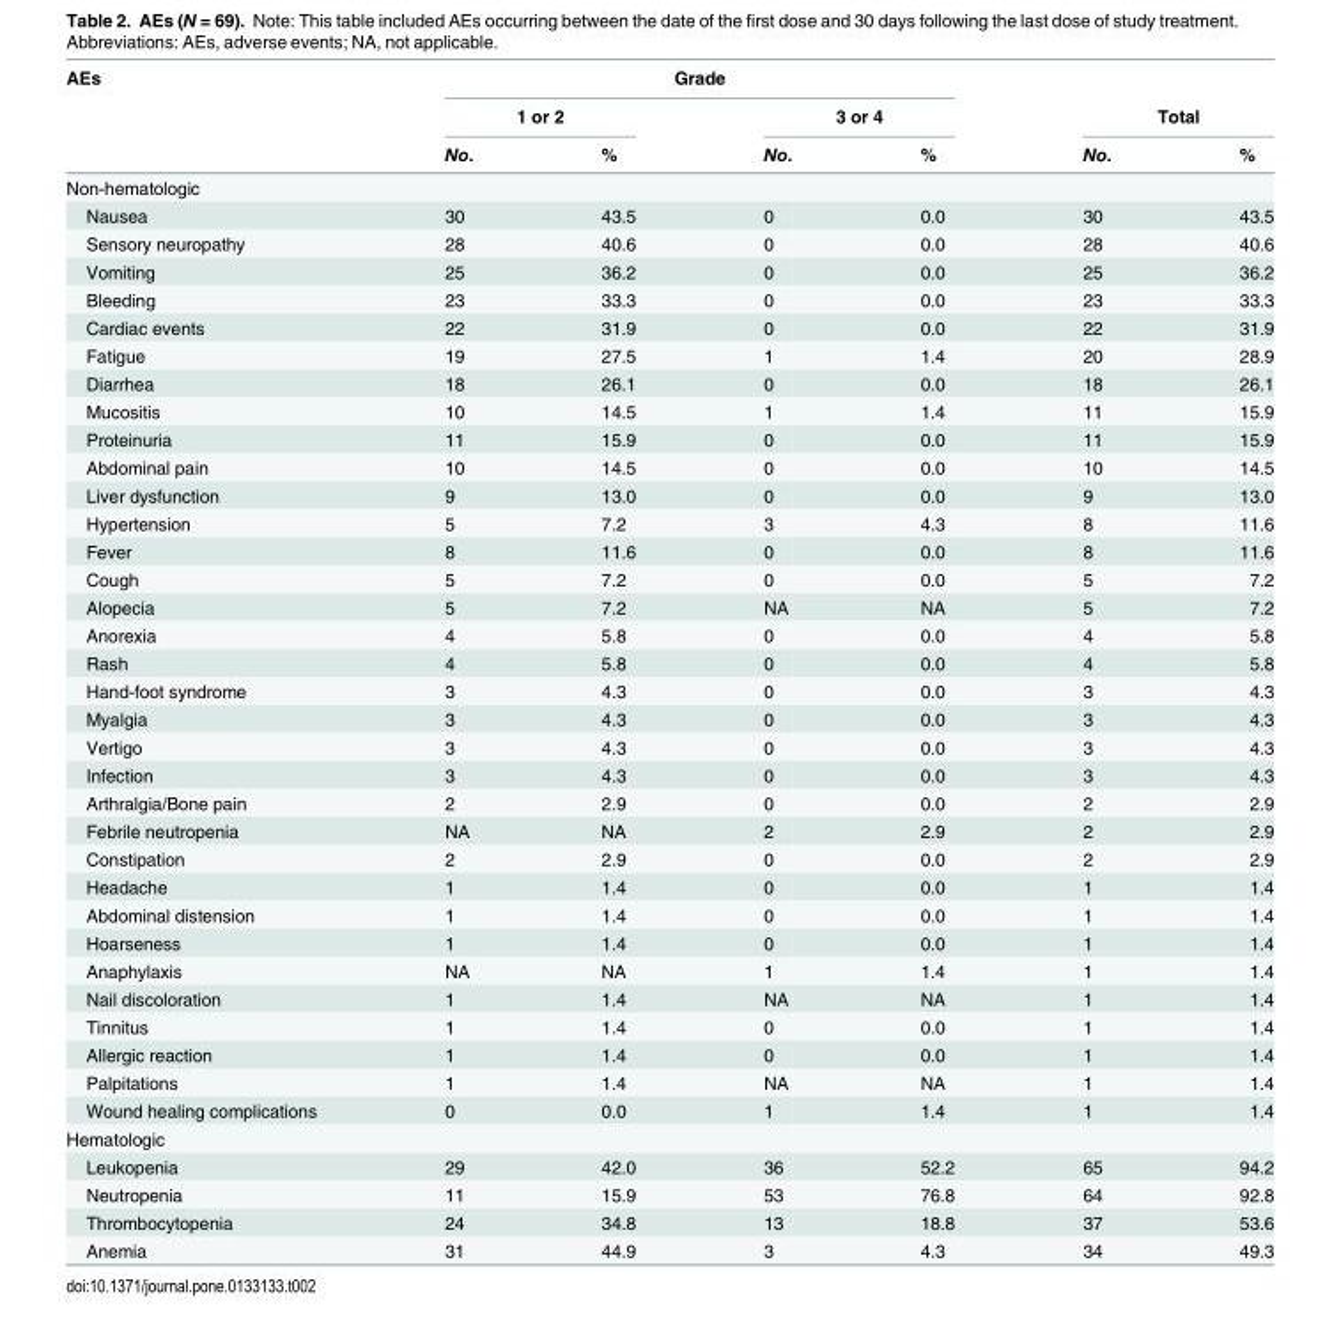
<table><thead><tr><td rowspan="3">AEs</td><td colspan="4">Grade</td><td></td><td></td></tr><tr><td colspan="2">1 or 2</td><td colspan="2">3 or 4</td><td colspan="2">Total</td></tr><tr><td>No.</td><td>%</td><td>No.</td><td>%</td><td>No.</td><td>%</td></tr></thead><tbody><tr><td colspan="7">Non-hematologic</td></tr><tr><td>Nausea</td><td>30</td><td>43.5</td><td>0</td><td>0.0</td><td>30</td><td>43.5</td></tr><tr><td>Sensory neuropathy</td><td>28</td><td>40.6</td><td>0</td><td>0.0</td><td>28</td><td>40.6</td></tr><tr><td>Vomiting</td><td>25</td><td>36.2</td><td>0</td><td>0.0</td><td>25</td><td>36.2</td></tr><tr><td>Bleeding</td><td>23</td><td>33.3</td><td>0</td><td>0.0</td><td>23</td><td>33.3</td></tr><tr><td>Cardiac events</td><td>22</td><td>31.9</td><td>0</td><td>0.0</td><td>22</td><td>31.9</td></tr><tr><td>Fatigue</td><td>19</td><td>27.5</td><td>1</td><td>1.4</td><td>20</td><td>28.9</td></tr><tr><td>Diarrhea</td><td>18</td><td>26.1</td><td>0</td><td>0.0</td><td>18</td><td>26.1</td></tr><tr><td>Mucositis</td><td>10</td><td>14.5</td><td>1</td><td>1.4</td><td>11</td><td>15.9</td></tr><tr><td>Proteinuria</td><td>11</td><td>15.9</td><td>0</td><td>0.0</td><td>11</td><td>15.9</td></tr><tr><td>Abdominal pain</td><td>10</td><td>14.5</td><td>0</td><td>0.0</td><td>10</td><td>14.5</td></tr><tr><td>Liver dysfunction</td><td>9</td><td>13.0</td><td>0</td><td>0.0</td><td>9</td><td>13.0</td></tr><tr><td>Hypertension</td><td>5</td><td>7.2</td><td>3</td><td>4.3</td><td>8</td><td>11.6</td></tr><tr><td>Fever</td><td>8</td><td>11.6</td><td>0</td><td>0.0</td><td>8</td><td>11.6</td></tr><tr><td>Cough</td><td>5</td><td>7.2</td><td>0</td><td>0.0</td><td>5</td><td>7.2</td></tr><tr><td>Alopecia</td><td>5</td><td>7.2</td><td>NA</td><td>NA</td><td>5</td><td>7.2</td></tr><tr><td>Anorexia</td><td>4</td><td>5.8</td><td>0</td><td>0.0</td><td>4</td><td>5.8</td></tr><tr><td>Rash</td><td>4</td><td>5.8</td><td>0</td><td>0.0</td><td>4</td><td>5.8</td></tr><tr><td>Hand-foot syndrome</td><td>3</td><td>4.3</td><td>0</td><td>0.0</td><td>3</td><td>4.3</td></tr><tr><td>Myalgia</td><td>3</td><td>4.3</td><td>0</td><td>0.0</td><td>3</td><td>4.3</td></tr><tr><td>Vertigo</td><td>3</td><td>4.3</td><td>0</td><td>0.0</td><td>3</td><td>4.3</td></tr><tr><td>Infection</td><td>3</td><td>4.3</td><td>0</td><td>0.0</td><td>3</td><td>4.3</td></tr><tr><td>Arthralgia/Bone pain</td><td>2</td><td>2.9</td><td>0</td><td>0.0</td><td>2</td><td>2.9</td></tr><tr><td>Febrile neutropenia</td><td>NA</td><td>NA</td><td>2</td><td>2.9</td><td>2</td><td>2.9</td></tr><tr><td>Constipation</td><td>2</td><td>2.9</td><td>0</td><td>0.0</td><td>2</td><td>2.9</td></tr><tr><td>Headache</td><td>1</td><td>1.4</td><td>0</td><td>0.0</td><td>1</td><td>1.4</td></tr><tr><td>Abdominal distension</td><td>1</td><td>1.4</td><td>0</td><td>0.0</td><td>1</td><td>1.4</td></tr><tr><td>Hoarseness</td><td>1</td><td>1.4</td><td>0</td><td>0.0</td><td>1</td><td>1.4</td></tr><tr><td>Anaphylaxis</td><td>NA</td><td>NA</td><td>1</td><td>1.4</td><td>1</td><td>1.4</td></tr><tr><td>Nail discoloration</td><td>1</td><td>1.4</td><td>NA</td><td>NA</td><td>1</td><td>1.4</td></tr><tr><td>Tinnitus</td><td>1</td><td>1.4</td><td>0</td><td>0.0</td><td>1</td><td>1.4</td></tr><tr><td>Allergic reaction</td><td>1</td><td>1.4</td><td>0</td><td>0.0</td><td>1</td><td>1.4</td></tr><tr><td>Palpitations</td><td>1</td><td>1.4</td><td>NA</td><td>NA</td><td>1</td><td>1.4</td></tr><tr><td>Wound healing complications</td><td>0</td><td>0.0</td><td>1</td><td>1.4</td><td>1</td><td>1.4</td></tr><tr><td colspan="7">Hematologic</td></tr><tr><td>Leukopenia</td><td>29</td><td>42.0</td><td>36</td><td>52.2</td><td>65</td><td>94.2</td></tr><tr><td>Neutropenia</td><td>11</td><td>15.9</td><td>53</td><td>76.8</td><td>64</td><td>92.8</td></tr><tr><td>Thrombocytopenia</td><td>24</td><td>34.8</td><td>13</td><td>18.8</td><td>37</td><td>53.6</td></tr><tr><td>Anemia</td><td>31</td><td>44.9</td><td>3</td><td>4.3</td><td>34</td><td>49.3</td></tr></tbody></table>